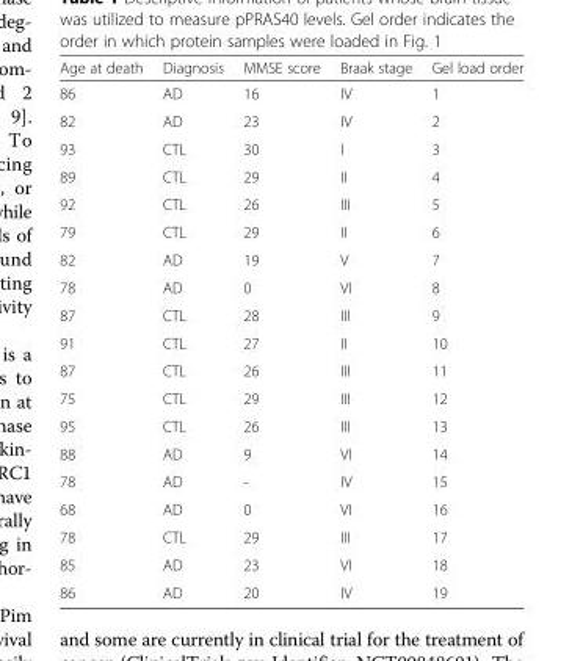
<table><thead><tr><td>Age at death</td><td>Diagnosis</td><td>MMSE score</td><td>Braak stage</td><td>Gel load order</td></tr></thead><tbody><tr><td>86</td><td>AD</td><td>16</td><td>IV</td><td>1</td></tr><tr><td>82</td><td>AD</td><td>23</td><td>IV</td><td>2</td></tr><tr><td>93</td><td>CTL</td><td>30</td><td>I</td><td>3</td></tr><tr><td>89</td><td>CTL</td><td>29</td><td>II</td><td>4</td></tr><tr><td>92</td><td>CTL</td><td>26</td><td>III</td><td>5</td></tr><tr><td>79</td><td>CTL</td><td>29</td><td>II</td><td>6</td></tr><tr><td>82</td><td>AD</td><td>19</td><td>V</td><td>7</td></tr><tr><td>78</td><td>AD</td><td>0</td><td>VI</td><td>8</td></tr><tr><td>87</td><td>CTL</td><td>28</td><td>III</td><td>9</td></tr><tr><td>91</td><td>CTL</td><td>27</td><td>II</td><td>10</td></tr><tr><td>87</td><td>CTL</td><td>26</td><td>III</td><td>11</td></tr><tr><td>75</td><td>CTL</td><td>29</td><td>III</td><td>12</td></tr><tr><td>95</td><td>CTL</td><td>26</td><td>III</td><td>13</td></tr><tr><td>88</td><td>AD</td><td>9</td><td>VI</td><td>14</td></tr><tr><td>78</td><td>AD</td><td>-</td><td>IV</td><td>15</td></tr><tr><td>68</td><td>AD</td><td>0</td><td>VI</td><td>16</td></tr><tr><td>78</td><td>CTL</td><td>29</td><td>III</td><td>17</td></tr><tr><td>85</td><td>AD</td><td>23</td><td>VI</td><td>18</td></tr><tr><td>86</td><td>AD</td><td>20</td><td>IV</td><td>19</td></tr></tbody></table>